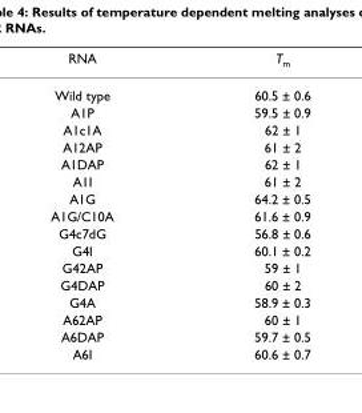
<table><thead><tr><td>RNA</td><td>T<sub>m</sub></td></tr></thead><tbody><tr><td>Wild type</td><td>60.5 ± 0.6</td></tr><tr><td>A1P</td><td>59.5 ± 0.9</td></tr><tr><td>A1c1A</td><td>62 ± 1</td></tr><tr><td>A12AP</td><td>61 ± 2</td></tr><tr><td>A1DAP</td><td>62 ± 1</td></tr><tr><td>A1I</td><td>61 ± 2</td></tr><tr><td>A1G</td><td>64.2 ± 0.5</td></tr><tr><td>A1G/C10A</td><td>61.6 ± 0.9</td></tr><tr><td>G4c7dG</td><td>56.8 ± 0.6</td></tr><tr><td>G4I</td><td>60.1 ± 0.2</td></tr><tr><td>G42AP</td><td>59 ± 1</td></tr><tr><td>G4DAP</td><td>60 ± 2</td></tr><tr><td>G4A</td><td>58.9 ± 0.3</td></tr><tr><td>A62AP</td><td>60 ± 1</td></tr><tr><td>A6DAP</td><td>59.7 ± 0.5</td></tr><tr><td>A6I</td><td>60.6 ± 0.7</td></tr></tbody></table>